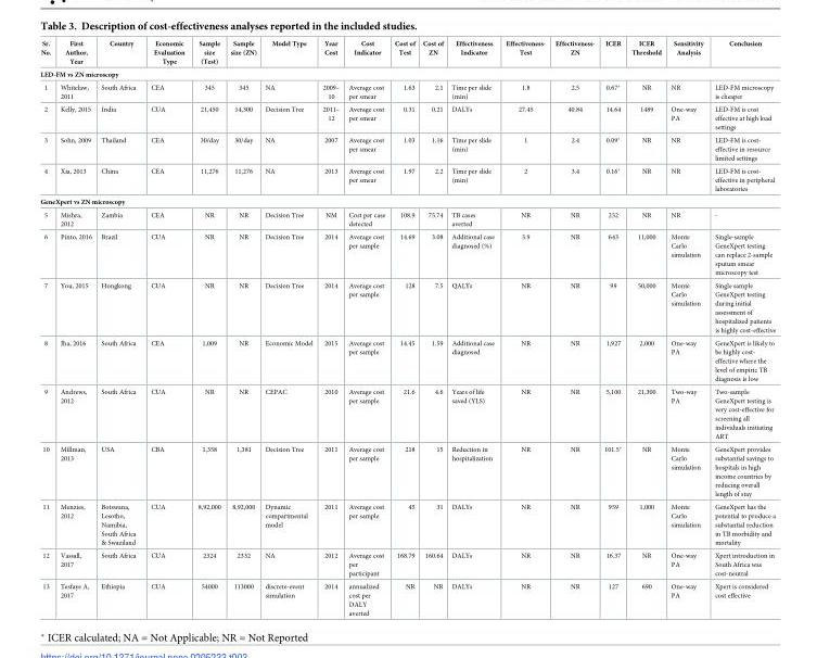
<table><thead><tr><td>Sr. No.</td><td>First Author, Year</td><td>Country</td><td>Economic Evaluation Type</td><td>Sample size (Test)</td><td>Sample size (ZN)</td><td>Model Type</td><td>Year Cost</td><td>Cost Indicator</td><td>Cost of Test</td><td>Cost of ZN</td><td>Effectiveness Indicator</td><td>Effectiveness- Test</td><td>Effectiveness- ZN</td><td>ICER</td><td>ICER Threshold</td><td>Sensitivity Analysis</td><td>Conclusion</td></tr></thead><tbody><tr><td colspan="18">LED-FM vs ZN microscopy</td></tr><tr><td>1</td><td>Whitelaw, 2011</td><td>South Africa</td><td>CEA</td><td>345</td><td>345</td><td>NA</td><td>2009– 10</td><td>Average cost per smear</td><td>1.63</td><td>2.1</td><td>Time per slide (min)</td><td>1.8</td><td>2.5</td><td>0.67*</td><td>NR</td><td>NR</td><td>LED-FM microscopy is cheaper</td></tr><tr><td>2</td><td>Kelly, 2015</td><td>India</td><td>CUA</td><td>21,450</td><td>14,300</td><td>Decision Tree</td><td>2011– 12</td><td>Average cost per smear</td><td>0.31</td><td>0.21</td><td>DALYs</td><td>27.45</td><td>40.84</td><td>14.64</td><td>1489</td><td>One-way PA</td><td>LED-FM is cost effective at high load settings</td></tr><tr><td>3</td><td>Sohn, 2009</td><td>Thailand</td><td>CEA</td><td>30/day</td><td>30/day</td><td>NA</td><td>2007</td><td>Average cost per smear</td><td>1.03</td><td>1.16</td><td>Time per slide (min)</td><td>1</td><td>2.4</td><td>0.09*</td><td>NR</td><td>NR</td><td>LED-FM is cost- effective in resource limited settings</td></tr><tr><td>4</td><td>Xia, 2013</td><td>China</td><td>CEA</td><td>11,276</td><td>11,276</td><td>NA</td><td>2013</td><td>Average cost per smear</td><td>1.97</td><td>2.2</td><td>Time per slide (min)</td><td>2</td><td>3.4</td><td>0.16*</td><td>NR</td><td>NR</td><td>LED-FM is cost- effective in peripheral laboratories</td></tr><tr><td colspan="18">GeneXpert vs ZN microscopy</td></tr><tr><td>5</td><td>Mishra, 2012</td><td>Zambia</td><td>CEA</td><td>NR</td><td>NR</td><td>Decision Tree</td><td>NM</td><td>Cost per case detected</td><td>108.9</td><td>75.74</td><td>TB cases averted</td><td>NR</td><td>NR</td><td>252</td><td>NR</td><td>NR</td><td>-</td></tr><tr><td>6</td><td>Pinto, 2016</td><td>Brazil</td><td>CUA</td><td>NR</td><td>NR</td><td>Decision Tree</td><td>2014</td><td>Average cost per sample</td><td>14.69</td><td>3.08</td><td>Additional case diagnosed (%)</td><td>3.9</td><td>NR</td><td>643</td><td>11,000</td><td>Monte Carlo simulation</td><td>Single-sample GeneXpert testing can replace 2-sample sputum smear microscopy test</td></tr><tr><td>7</td><td>You, 2015</td><td>Hongkong</td><td>CUA</td><td>NR</td><td>NR</td><td>Decision Tree</td><td>2014</td><td>Average cost per sample</td><td>128</td><td>7.5</td><td>QALYs</td><td>NR</td><td>NR</td><td>99</td><td>50,000</td><td>Monte Carlo simulation</td><td>Single sample GeneXpert testing during initial assessment of hospitalized patients is highly cost-effective</td></tr><tr><td>8</td><td>Jha, 2016</td><td>South Africa</td><td>CEA</td><td>1,009</td><td>NR</td><td>Economic Model</td><td>2015</td><td>Average cost per sample</td><td>14.45</td><td>1.59</td><td>Additional case diagnosed</td><td>NR</td><td>NR</td><td>1,927</td><td>2,000</td><td>One-way PA</td><td>GeneXpert is likely to be highly cost- effective where the level of empiric TB diagnosis is low</td></tr><tr><td>9</td><td>Andrews, 2012</td><td>South Africa</td><td>CUA</td><td>NR</td><td>NR</td><td>CEPAC</td><td>2010</td><td>Average cost per sample</td><td>21.6</td><td>4.6</td><td>Years of life saved (YLS)</td><td>NR</td><td>NR</td><td>5,100</td><td>21,300</td><td>Two-way PA</td><td>Two-sample GeneXpert testing is very cost-effective for screening all individuals initiating ART</td></tr><tr><td>10</td><td>Millman, 2013</td><td>USA</td><td>CBA</td><td>1,358</td><td>1,381</td><td>Decision Tree</td><td>2011</td><td>Average cost per sample</td><td>218</td><td>15</td><td>Reduction in hospitalization</td><td>NR</td><td>NR</td><td>101.5*</td><td>NR</td><td>Monte Carlo simulation</td><td>GeneXpert provides substantial savings to hospitals in high income countries by reducing overall length of stay</td></tr><tr><td>11</td><td>Menzies, 2012</td><td>Botswana, Lesotho, Namibia, South Africa &amp; Swaziland</td><td>CUA</td><td>8,92,000</td><td>8,92,000</td><td>Dynamic compartmental model</td><td>2011</td><td>Average cost per sample</td><td>45</td><td>31</td><td>DALYs</td><td>NR</td><td>NR</td><td>959</td><td>1,000</td><td>Monte Carlo simulation</td><td>GeneXpert has the potential to produce a substantial reduction in TB morbidity and mortality</td></tr><tr><td>12</td><td>Vassall, 2017</td><td>South Africa</td><td>CUA</td><td>2324</td><td>2332</td><td>NA</td><td>2012</td><td>Average cost per participant</td><td>168.79</td><td>160.64</td><td>DALYs</td><td>NR</td><td>NR</td><td>16.37</td><td>NR</td><td>One-way PA</td><td>Xpert introduction in South Africa was cost-neutral</td></tr><tr><td>13</td><td>Tesfaye A, 2017</td><td>Ethiopia</td><td>CUA</td><td>54000</td><td>113000</td><td>discrete-event simulation</td><td>2014</td><td>annualized cost per DALY averted</td><td>NR</td><td>NR</td><td>DALYs</td><td>NR</td><td>NR</td><td>127</td><td>690</td><td>One-way PA</td><td>Xpert is considered cost effective</td></tr></tbody></table>